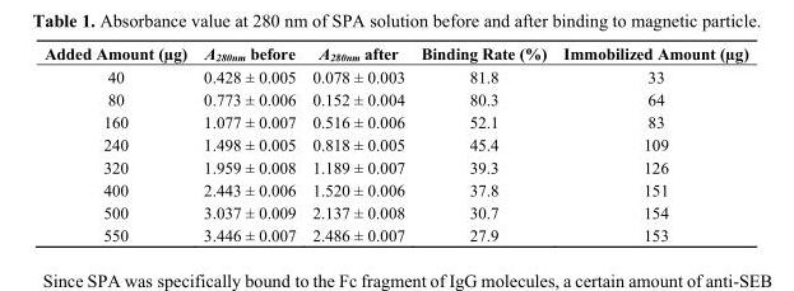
<table><thead><tr><td>Added Amount (µg)</td><td>A<sub>280nm</sub> before</td><td>A<sub>280nm</sub> after</td><td>Binding Rate (%)</td><td>Immobilized Amount (µg)</td></tr></thead><tbody><tr><td>40</td><td>0.428 ± 0.005</td><td>0.078 ± 0.003</td><td>81.8</td><td>33</td></tr><tr><td>80</td><td>0.773 ± 0.006</td><td>0.152 ± 0.004</td><td>80.3</td><td>64</td></tr><tr><td>160</td><td>1.077 ± 0.007</td><td>0.516 ± 0.006</td><td>52.1</td><td>83</td></tr><tr><td>240</td><td>1.498 ± 0.005</td><td>0.818 ± 0.005</td><td>45.4</td><td>109</td></tr><tr><td>320</td><td>1.959 ± 0.008</td><td>1.189 ± 0.007</td><td>39.3</td><td>126</td></tr><tr><td>400</td><td>2.443 ± 0.006</td><td>1.520 ± 0.006</td><td>37.8</td><td>151</td></tr><tr><td>500</td><td>3.037 ± 0.009</td><td>2.137 ± 0.008</td><td>30.7</td><td>154</td></tr><tr><td>550</td><td>3.446 ± 0.007</td><td>2.486 ± 0.007</td><td>27.9</td><td>153</td></tr></tbody></table>